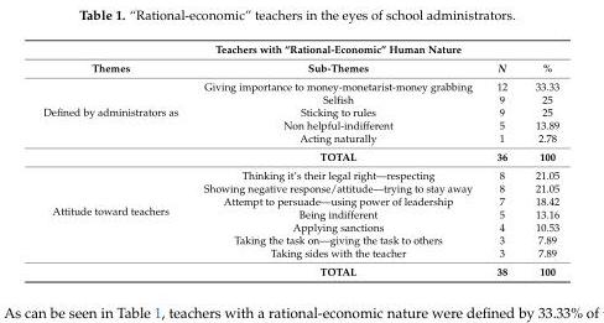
<table><thead><tr><td rowspan="2">Themes</td><td rowspan="2">Teachers with “Rational-Economic” Human Nature Sub-Themes</td><td rowspan="2">N</td><td rowspan="2">%</td></tr><tr></tr></thead><tbody><tr><td rowspan="6">Defined by administrators as</td><td>Giving importance to money-monetarist-money grabbing</td><td>12</td><td>33.33</td></tr><tr><td>Selfish</td><td>9</td><td>25</td></tr><tr><td>Sticking to rules</td><td>9</td><td>25</td></tr><tr><td>Non helpful-indifferent</td><td>5</td><td>13.89</td></tr><tr><td>Acting naturally</td><td>1</td><td>2.78</td></tr><tr><td>TOTAL</td><td>36</td><td>100</td></tr><tr><td rowspan="8">Attitude toward teachers</td><td>Thinking it’s their legal right—respecting</td><td>8</td><td>21.05</td></tr><tr><td>Showing negative response/attitude—trying to stay away</td><td>8</td><td>21.05</td></tr><tr><td>Attempt to persuade—using power of leadership</td><td>7</td><td>18.42</td></tr><tr><td>Being indifferent</td><td>5</td><td>13.16</td></tr><tr><td>Applying sanctions</td><td>4</td><td>10.53</td></tr><tr><td>Taking the task on—giving the task to others</td><td>3</td><td>7.89</td></tr><tr><td>Taking sides with the teacher</td><td>3</td><td>7.89</td></tr><tr><td>TOTAL</td><td>38</td><td>100</td></tr></tbody></table>